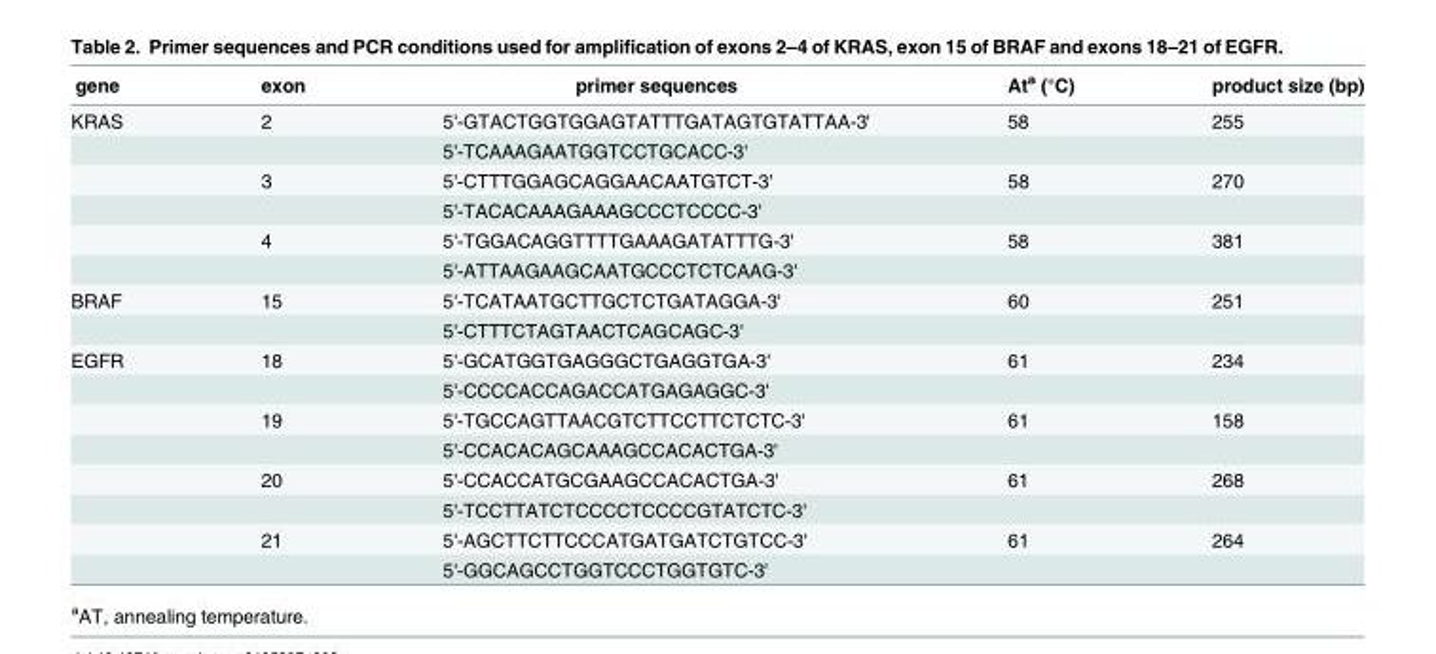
<table><thead><tr><td>gene</td><td>exon</td><td>primer sequences</td><td>At<sup>a</sup> (°C)</td><td>product size (bp)</td></tr></thead><tbody><tr><td rowspan="6">KRAS</td><td>2</td><td>5&#x27;-GTACTGGTGGAGTATTTGATAGTGTATTAA-3&#x27;</td><td>58</td><td>255</td></tr><tr><td></td><td>5&#x27;-TCAAAGAATGGTCCTGCACC-3&#x27;</td><td></td><td></td></tr><tr><td>3</td><td>5&#x27;-CTTTGGAGCAGGAACAATGTCT-3&#x27;</td><td>58</td><td>270</td></tr><tr><td></td><td>5&#x27;-TACACAAAGAAAGCCCTCCCC-3&#x27;</td><td></td><td></td></tr><tr><td>4</td><td>5&#x27;-TGGACAGGTTTTGAAAGATATTTG-3&#x27;</td><td>58</td><td>381</td></tr><tr><td></td><td>5&#x27;-ATTAAGAAGCAATGCCCTCTCAAG-3&#x27;</td><td></td><td></td></tr><tr><td rowspan="2">BRAF</td><td>15</td><td>5&#x27;-TCATAATGCTTGCTCTGATAGGA-3&#x27;</td><td>60</td><td>251</td></tr><tr><td></td><td>5&#x27;-CTTTCTAGTAACTCAGCAGC-3&#x27;</td><td></td><td></td></tr><tr><td rowspan="8">EGFR</td><td>18</td><td>5&#x27;-GCATGGTGAGGGCTGAGGTGA-3&#x27;</td><td>61</td><td>234</td></tr><tr><td></td><td>5&#x27;-CCCCACCAGACCATGAGAGGC-3&#x27;</td><td></td><td></td></tr><tr><td>19</td><td>5&#x27;-TGCCAGTTAACGTCTTCCTTCTCTC-3&#x27;</td><td>61</td><td>158</td></tr><tr><td></td><td>5&#x27;-CCACACAGCAAAGCCACACTGA-3&#x27;</td><td></td><td></td></tr><tr><td>20</td><td>5&#x27;-CCACCATGCGAAGCCACACTGA-3&#x27;</td><td>61</td><td>268</td></tr><tr><td></td><td>5&#x27;-TCCTTATCTCCCCTCCCCGTATCTC-3&#x27;</td><td></td><td></td></tr><tr><td>21</td><td>5&#x27;-AGCTTCTTCCCATGATGATCTGTCC-3&#x27;</td><td>61</td><td>264</td></tr><tr><td></td><td>5&#x27;-GGCAGCCTGGTCCCTGGTGTC-3&#x27;</td><td></td><td></td></tr></tbody></table>